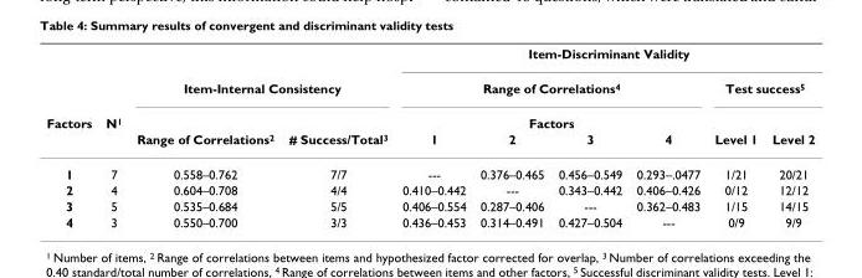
<table><thead><tr><td rowspan="4">Factors</td><td rowspan="4">N1</td><td></td><td></td><td colspan="6">Item-Discriminant Validity</td></tr><tr><td colspan="2">Item-Internal Consistency</td><td rowspan="2" colspan="4">Range of Correlations4 Factors</td><td colspan="2">Test success5</td></tr><tr><td rowspan="2">Range of Correlations2</td><td rowspan="2"># Success/Total3</td><td rowspan="2">Level 1</td><td rowspan="2">Level 2</td></tr><tr><td>1</td><td>2</td><td>3</td><td>4</td></tr></thead><tbody><tr><td>1</td><td>7</td><td>0.558–0.762</td><td>7/7</td><td>---</td><td>0.376–0.465</td><td>0.456–0.549</td><td>0.293–.0477</td><td>1/21</td><td>20/21</td></tr><tr><td>2</td><td>4</td><td>0.604–0.708</td><td>4/4</td><td>0.410–0.442</td><td>---</td><td>0.343–0.442</td><td>0.406–0.426</td><td>0/12</td><td>12/12</td></tr><tr><td>3</td><td>5</td><td>0.535–0.684</td><td>5/5</td><td>0.406–0.554</td><td>0.287–0.406</td><td>---</td><td>0.362–0.483</td><td>1/15</td><td>14/15</td></tr><tr><td>4</td><td>3</td><td>0.550–0.700</td><td>3/3</td><td>0.436–0.453</td><td>0.314–0.491</td><td>0.427–0.504</td><td>---</td><td>0/9</td><td>9/9</td></tr></tbody></table>